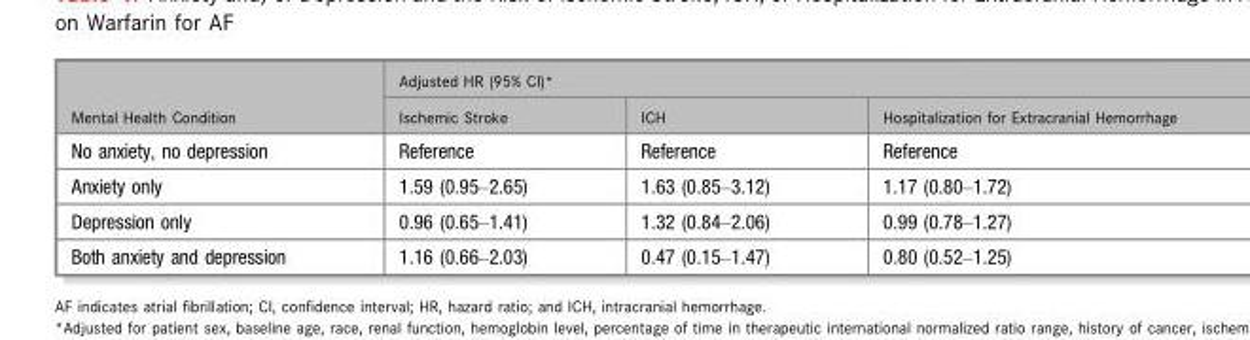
<table><thead><tr><td rowspan="2">Mental Health Condition</td><td colspan="3">Adjusted HR (95% CI)*</td></tr><tr><td>Ischemic Stroke</td><td>ICH</td><td>Hospitalization for Extracranial Hemorrhage</td></tr></thead><tbody><tr><td>No anxiety, no depression</td><td>Reference</td><td>Reference</td><td>Reference</td></tr><tr><td>Anxiety only</td><td>1.59 (0.95–2.65)</td><td>1.63 (0.85–3.12)</td><td>1.17 (0.80–1.72)</td></tr><tr><td>Depression only</td><td>0.96 (0.65–1.41)</td><td>1.32 (0.84–2.06)</td><td>0.99 (0.78–1.27)</td></tr><tr><td>Both anxiety and depression</td><td>1.16 (0.66–2.03)</td><td>0.47 (0.15–1.47)</td><td>0.80 (0.52–1.25)</td></tr></tbody></table>